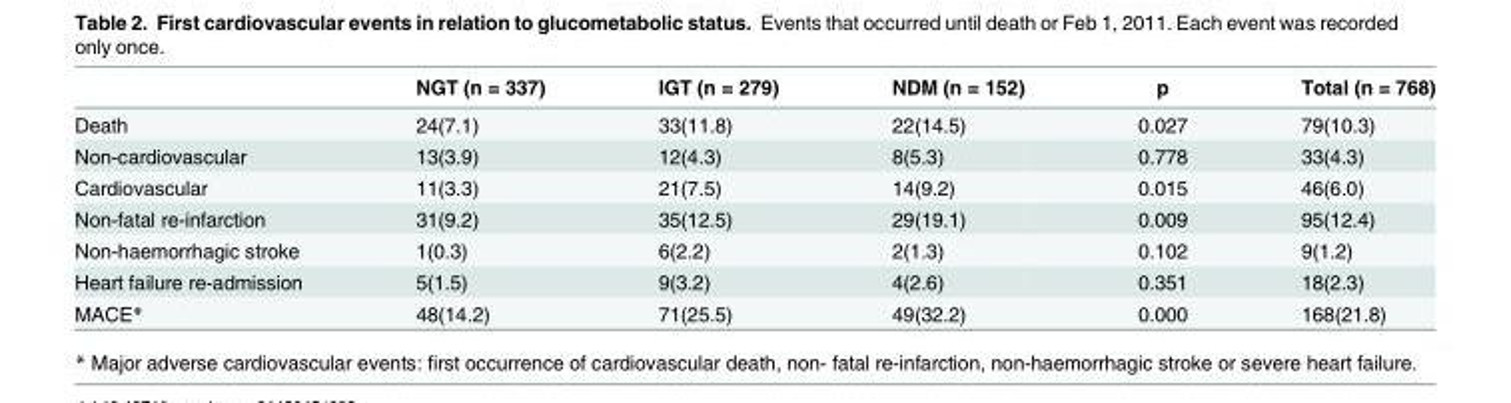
<table><thead><tr><td></td><td>NGT (n = 337)</td><td>IGT (n = 279)</td><td>NDM (n = 152)</td><td>p</td><td>Total (n = 768)</td></tr></thead><tbody><tr><td>Death</td><td>24(7.1)</td><td>33(11.8)</td><td>22(14.5)</td><td>0.027</td><td>79(10.3)</td></tr><tr><td>Non-cardiovascular</td><td>13(3.9)</td><td>12(4.3)</td><td>8(5.3)</td><td>0.778</td><td>33(4.3)</td></tr><tr><td>Cardiovascular</td><td>11(3.3)</td><td>21(7.5)</td><td>14(9.2)</td><td>0.015</td><td>46(6.0)</td></tr><tr><td>Non-fatal re-infarction</td><td>31(9.2)</td><td>35(12.5)</td><td>29(19.1)</td><td>0.009</td><td>95(12.4)</td></tr><tr><td>Non-haemorrhagic stroke</td><td>1(0.3)</td><td>6(2.2)</td><td>2(1.3)</td><td>0.102</td><td>9(1.2)</td></tr><tr><td>Heart failure re-admission</td><td>5(1.5)</td><td>9(3.2)</td><td>4(2.6)</td><td>0.351</td><td>18(2.3)</td></tr><tr><td>MACE*</td><td>48(14.2)</td><td>71(25.5)</td><td>49(32.2)</td><td>0.000</td><td>168(21.8)</td></tr></tbody></table>